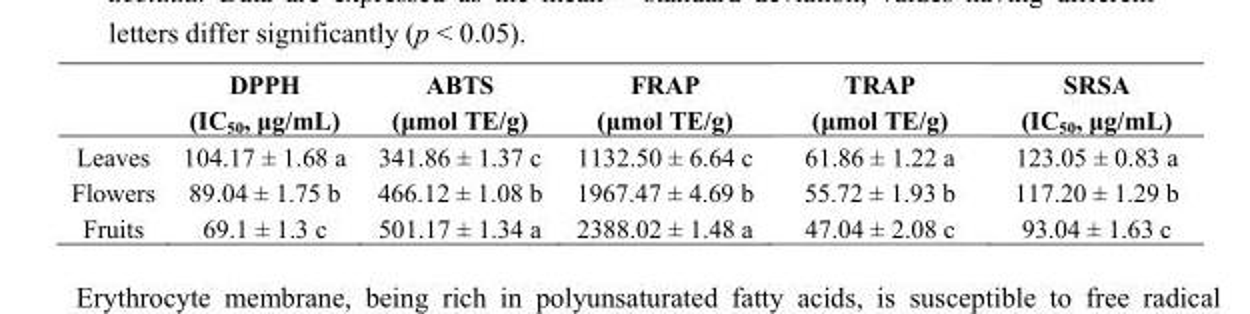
<table><thead><tr><td></td><td>DPPH (IC<sub>50</sub>, μg/mL)</td><td>ABTS (μmol TE/g)</td><td>FRAP (μmol TE/g)</td><td>TRAP (μmol TE/g)</td><td>SRSA (IC<sub>50</sub>, μg/mL)</td></tr></thead><tbody><tr><td>Leaves</td><td>104.17 ± 1.68 a</td><td>341.86 ± 1.37 c</td><td>1132.50 ± 6.64 c</td><td>61.86 ± 1.22 a</td><td>123.05 ± 0.83 a</td></tr><tr><td>Flowers</td><td>89.04 ± 1.75 b</td><td>466.12 ± 1.08 b</td><td>1967.47 ± 4.69 b</td><td>55.72 ± 1.93 b</td><td>117.20 ± 1.29 b</td></tr><tr><td>Fruits</td><td>69.1 ± 1.3 c</td><td>501.17 ± 1.34 a</td><td>2388.02 ± 1.48 a</td><td>47.04 ± 2.08 c</td><td>93.04 ± 1.63 c</td></tr></tbody></table>